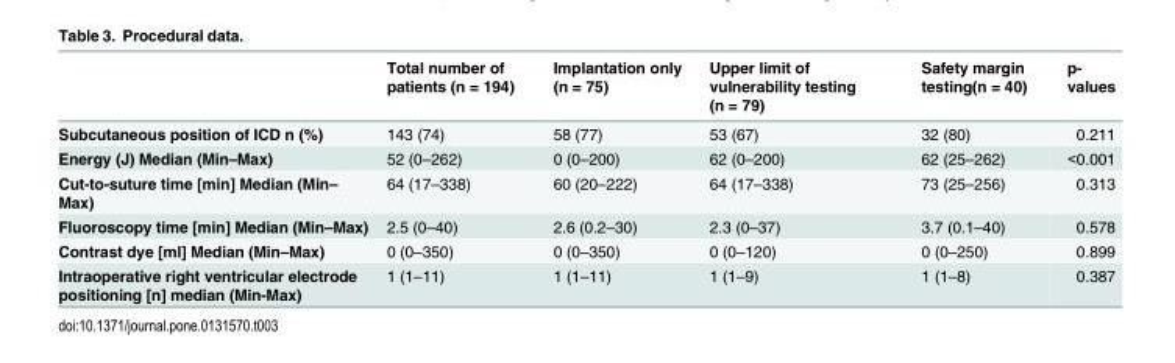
<table><thead><tr><td></td><td>Total number of patients (n = 194)</td><td>Implantation only (n = 75)</td><td>Upper limit of vulnerability testing (n = 79)</td><td>Safety margin testing(n = 40)</td><td>p- values</td></tr></thead><tbody><tr><td>Subcutaneous position of ICD n (%)</td><td>143 (74)</td><td>58 (77)</td><td>53 (67)</td><td>32 (80)</td><td>0.211</td></tr><tr><td>Energy (J) Median (Min–Max)</td><td>52 (0–262)</td><td>0 (0–200)</td><td>62 (0–200)</td><td>62 (25–262)</td><td>&lt;0.001</td></tr><tr><td>Cut-to-suture time [min] Median (Min– Max)</td><td>64 (17–338)</td><td>60 (20–222)</td><td>64 (17–338)</td><td>73 (25–256)</td><td>0.313</td></tr><tr><td>Fluoroscopy time [min] Median (Min–Max)</td><td>2.5 (0–40)</td><td>2.6 (0.2–30)</td><td>2.3 (0–37)</td><td>3.7 (0.1–40)</td><td>0.578</td></tr><tr><td>Contrast dye [ml] Median (Min–Max)</td><td>0 (0–350)</td><td>0 (0–350)</td><td>0 (0–120)</td><td>0 (0–250)</td><td>0.899</td></tr><tr><td>Intraoperative right ventricular electrode positioning [n] median (Min-Max)</td><td>1 (1–11)</td><td>1 (1–11)</td><td>1 (1–9)</td><td>1 (1–8)</td><td>0.387</td></tr></tbody></table>